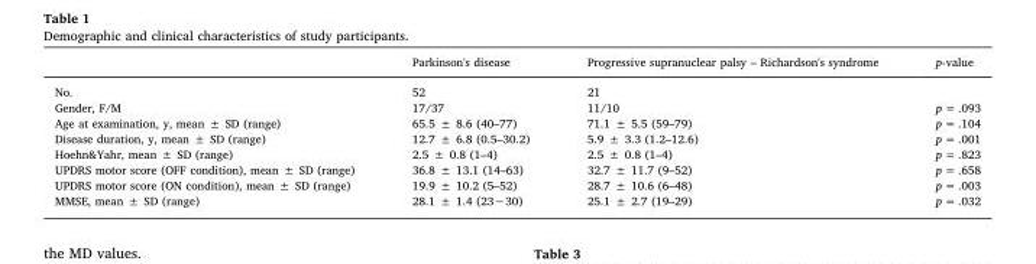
<table><thead><tr><td></td><td>Parkinson&#x27;s disease</td><td>Progressive supranuclear palsy – Richardson&#x27;s syndrome</td><td>p-value</td></tr></thead><tbody><tr><td>No.</td><td>52</td><td>21</td><td></td></tr><tr><td>Gender, F/M</td><td>17/37</td><td>11/10</td><td>p = .093</td></tr><tr><td>Age at examination, y, mean ± SD (range)</td><td>65.5 ± 8.6 (40–77)</td><td>71.1 ± 5.5 (59–79)</td><td>p = .104</td></tr><tr><td>Disease duration, y, mean ± SD (range)</td><td>12.7 ± 6.8 (0.5–30.2)</td><td>5.9 ± 3.3 (1.2–12.6)</td><td>p = .001</td></tr><tr><td>Hoehn&amp;Yahr, mean ± SD (range)</td><td>2.5 ± 0.8 (1–4)</td><td>2.5 ± 0.8 (1–4)</td><td>p = .823</td></tr><tr><td>UPDRS motor score (OFF condition), mean ± SD (range)</td><td>36.8 ± 13.1 (14–63)</td><td>32.7 ± 11.7 (9–52)</td><td>p = .658</td></tr><tr><td>UPDRS motor score (ON condition), mean ± SD (range)</td><td>19.9 ± 10.2 (5–52)</td><td>28.7 ± 10.6 (6–48)</td><td>p = .003</td></tr><tr><td>MMSE, mean ± SD (range)</td><td>28.1 ± 1.4 (23−30)</td><td>25.1 ± 2.7 (19–29)</td><td>p = .032</td></tr></tbody></table>